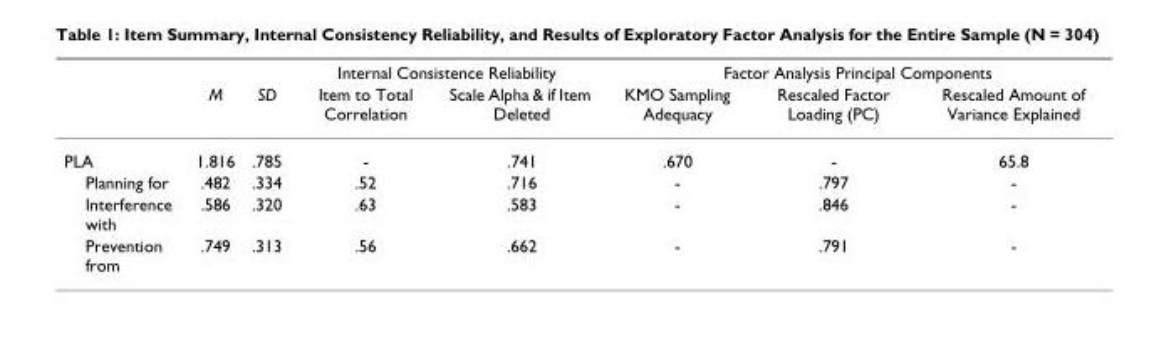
<table><thead><tr><td rowspan="2"></td><td rowspan="2">M</td><td rowspan="2">SD</td><td colspan="2">Internal Consistence Reliability</td><td colspan="3">Factor Analysis Principal Components</td></tr><tr><td>Item to Total Correlation</td><td>Scale Alpha &amp; if Item Deleted</td><td>KMO Sampling Adequacy</td><td>Rescaled Factor Loading (PC)</td><td>Rescaled Amount of Variance Explained</td></tr></thead><tbody><tr><td>PLA</td><td>1.816</td><td>.785</td><td>-</td><td>.741</td><td>.670</td><td>-</td><td>65.8</td></tr><tr><td>Planning for</td><td>.482</td><td>.334</td><td>.52</td><td>.716</td><td>-</td><td>.797</td><td>-</td></tr><tr><td>Interference with</td><td>.586</td><td>.320</td><td>.63</td><td>.583</td><td>-</td><td>.846</td><td>-</td></tr><tr><td>Prevention from</td><td>.749</td><td>.313</td><td>.56</td><td>.662</td><td>-</td><td>.791</td><td>-</td></tr></tbody></table>